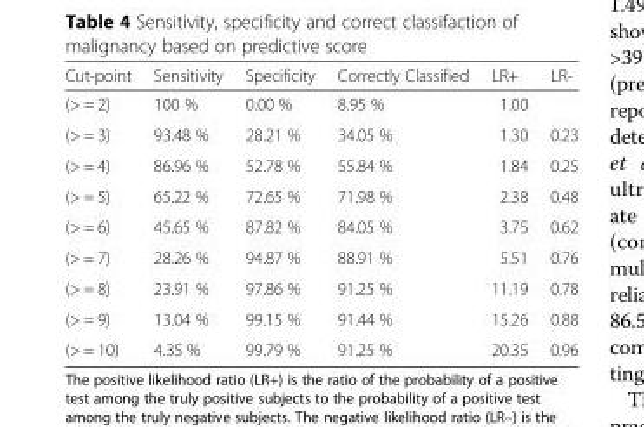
<table><thead><tr><td>Cut-point</td><td>Sensitivity</td><td>Specificity</td><td>Correctly Classified</td><td>LR+</td><td>LR-</td></tr></thead><tbody><tr><td>(&gt; = 2)</td><td>100 %</td><td>0.00 %</td><td>8.95 %</td><td>1.00</td><td></td></tr><tr><td>(&gt; = 3)</td><td>93.48 %</td><td>28.21 %</td><td>34.05 %</td><td>1.30</td><td>0.23</td></tr><tr><td>(&gt; = 4)</td><td>86.96 %</td><td>52.78 %</td><td>55.84 %</td><td>1.84</td><td>0.25</td></tr><tr><td>(&gt; = 5)</td><td>65.22 %</td><td>72.65 %</td><td>71.98 %</td><td>2.38</td><td>0.48</td></tr><tr><td>(&gt; = 6)</td><td>45.65 %</td><td>87.82 %</td><td>84.05 %</td><td>3.75</td><td>0.62</td></tr><tr><td>(&gt; = 7)</td><td>28.26 %</td><td>94.87 %</td><td>88.91 %</td><td>5.51</td><td>0.76</td></tr><tr><td>(&gt; = 8)</td><td>23.91 %</td><td>97.86 %</td><td>91.25 %</td><td>11.19</td><td>0.78</td></tr><tr><td>(&gt; = 9)</td><td>13.04 %</td><td>99.15 %</td><td>91.44 %</td><td>15.26</td><td>0.88</td></tr><tr><td>(&gt; = 10)</td><td>4.35 %</td><td>99.79 %</td><td>91.25 %</td><td>20.35</td><td>0.96</td></tr></tbody></table>